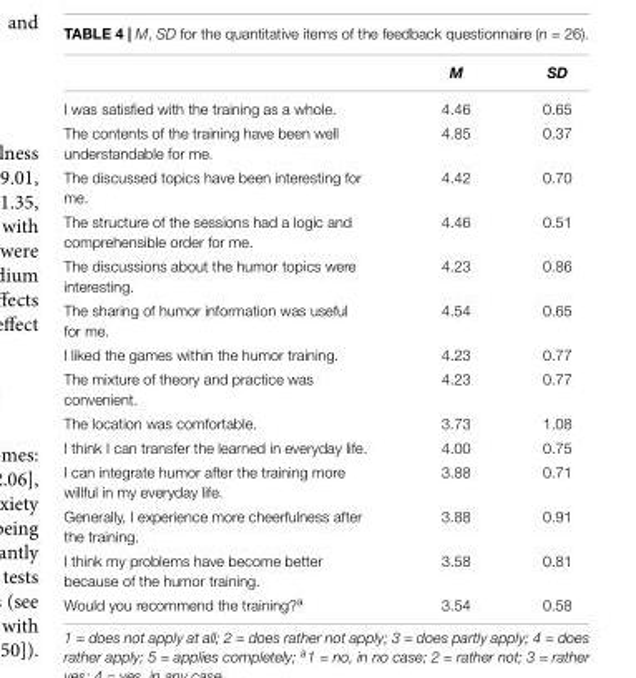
<table><thead><tr><td></td><td>M</td><td>SD</td></tr></thead><tbody><tr><td>I was satisfied with the training as a whole.</td><td>4.46</td><td>0.65</td></tr><tr><td>The contents of the training have been well understandable for me.</td><td>4.85</td><td>0.37</td></tr><tr><td>The discussed topics have been interesting for me.</td><td>4.42</td><td>0.70</td></tr><tr><td>The structure of the sessions had a logic and comprehensible order for me.</td><td>4.46</td><td>0.51</td></tr><tr><td>The discussions about the humor topics were interesting.</td><td>4.23</td><td>0.86</td></tr><tr><td>The sharing of humor information was useful for me.</td><td>4.54</td><td>0.65</td></tr><tr><td>I liked the games within the humor training.</td><td>4.23</td><td>0.77</td></tr><tr><td>The mixture of theory and practice was convenient.</td><td>4.23</td><td>0.77</td></tr><tr><td>The location was comfortable.</td><td>3.73</td><td>1.08</td></tr><tr><td>I think I can transfer the learned in everyday life.</td><td>4.00</td><td>0.75</td></tr><tr><td>I can integrate humor after the training more willful in my everyday life.</td><td>3.88</td><td>0.71</td></tr><tr><td>Generally, I experience more cheerfulness after the training.</td><td>3.88</td><td>0.91</td></tr><tr><td>I think my problems have become better because of the humor training.</td><td>3.58</td><td>0.81</td></tr><tr><td>Would you recommend the training?<sup>a</sup></td><td>3.54</td><td>0.58</td></tr></tbody></table>